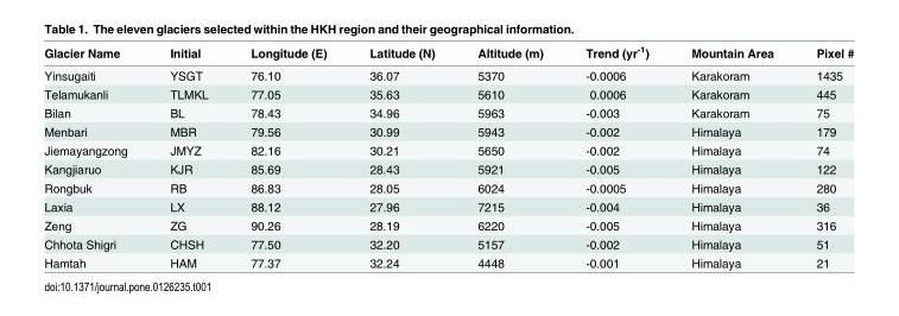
<table><thead><tr><td>Glacier Name</td><td>Initial</td><td>Longitude (E)</td><td>Latitude (N)</td><td>Altitude (m)</td><td>Trend (yr<sup>-1</sup>)</td><td>Mountain Area</td><td>Pixel #</td></tr></thead><tbody><tr><td>Yinsugaiti</td><td>YSGT</td><td>76.10</td><td>36.07</td><td>5370</td><td>-0.0006</td><td>Karakoram</td><td>1435</td></tr><tr><td>Telamukanli</td><td>TLMKL</td><td>77.05</td><td>35.63</td><td>5610</td><td>0.0006</td><td>Karakoram</td><td>445</td></tr><tr><td>Bilan</td><td>BL</td><td>78.43</td><td>34.96</td><td>5963</td><td>-0.003</td><td>Karakoram</td><td>75</td></tr><tr><td>Menbari</td><td>MBR</td><td>79.56</td><td>30.99</td><td>5943</td><td>-0.002</td><td>Himalaya</td><td>179</td></tr><tr><td>Jiemayangzong</td><td>JMYZ</td><td>82.16</td><td>30.21</td><td>5650</td><td>-0.002</td><td>Himalaya</td><td>74</td></tr><tr><td>Kangjiaruo</td><td>KJR</td><td>85.69</td><td>28.43</td><td>5921</td><td>-0.005</td><td>Himalaya</td><td>122</td></tr><tr><td>Rongbuk</td><td>RB</td><td>86.83</td><td>28.05</td><td>6024</td><td>-0.0005</td><td>Himalaya</td><td>280</td></tr><tr><td>Laxia</td><td>LX</td><td>88.12</td><td>27.96</td><td>7215</td><td>-0.004</td><td>Himalaya</td><td>36</td></tr><tr><td>Zeng</td><td>ZG</td><td>90.26</td><td>28.19</td><td>6220</td><td>-0.005</td><td>Himalaya</td><td>316</td></tr><tr><td>Chhota Shigri</td><td>CHSH</td><td>77.50</td><td>32.20</td><td>5157</td><td>-0.002</td><td>Himalaya</td><td>51</td></tr><tr><td>Hamtah</td><td>HAM</td><td>77.37</td><td>32.24</td><td>4448</td><td>-0.001</td><td>Himalaya</td><td>21</td></tr></tbody></table>